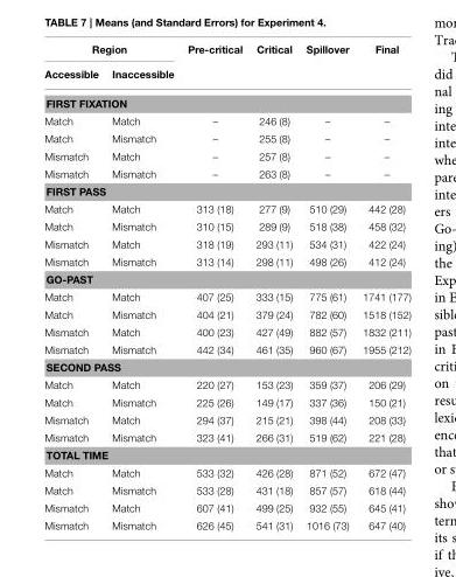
<table><thead><tr><td colspan="2">Region</td><td rowspan="2">Pre-critical</td><td rowspan="2">Critical</td><td rowspan="2">Spillover</td><td rowspan="2">Final</td></tr><tr><td>Accessible</td><td>Inaccessible</td></tr></thead><tbody><tr><td colspan="6">FIRST FIXATION</td></tr><tr><td>Match</td><td>Match</td><td>–</td><td>246 (8)</td><td>–</td><td>–</td></tr><tr><td>Match</td><td>Mismatch</td><td>–</td><td>255 (8)</td><td>–</td><td>–</td></tr><tr><td>Mismatch</td><td>Match</td><td>–</td><td>257 (8)</td><td>–</td><td>–</td></tr><tr><td>Mismatch</td><td>Mismatch</td><td>–</td><td>263 (8)</td><td>–</td><td>–</td></tr><tr><td colspan="6">FIRST PASS</td></tr><tr><td>Match</td><td>Match</td><td>313 (18)</td><td>277 (9)</td><td>510 (29)</td><td>442 (28)</td></tr><tr><td>Match</td><td>Mismatch</td><td>310 (15)</td><td>289 (9)</td><td>518 (38)</td><td>458 (32)</td></tr><tr><td>Mismatch</td><td>Match</td><td>318 (19)</td><td>293 (11)</td><td>534 (31)</td><td>422 (24)</td></tr><tr><td>Mismatch</td><td>Mismatch</td><td>313 (14)</td><td>298 (11)</td><td>498 (26)</td><td>412 (24)</td></tr><tr><td colspan="6">GO-PAST</td></tr><tr><td>Match</td><td>Match</td><td>407 (25)</td><td>333 (15)</td><td>775 (61)</td><td>1741 (177)</td></tr><tr><td>Match</td><td>Mismatch</td><td>404 (21)</td><td>379 (24)</td><td>782 (60)</td><td>1518 (152)</td></tr><tr><td>Mismatch</td><td>Match</td><td>400 (23)</td><td>427 (49)</td><td>882 (57)</td><td>1832 (211)</td></tr><tr><td>Mismatch</td><td>Mismatch</td><td>442 (34)</td><td>461 (35)</td><td>960 (67)</td><td>1955 (212)</td></tr><tr><td colspan="6">SECOND PASS</td></tr><tr><td>Match</td><td>Match</td><td>220 (27)</td><td>153 (23)</td><td>359 (37)</td><td>206 (29)</td></tr><tr><td>Match</td><td>Mismatch</td><td>225 (26)</td><td>149 (17)</td><td>337 (36)</td><td>150 (21)</td></tr><tr><td>Mismatch</td><td>Match</td><td>294 (37)</td><td>215 (21)</td><td>398 (44)</td><td>208 (33)</td></tr><tr><td>Mismatch</td><td>Mismatch</td><td>323 (41)</td><td>266 (31)</td><td>519 (62)</td><td>221 (28)</td></tr><tr><td colspan="6">TOTAL TIME</td></tr><tr><td>Match</td><td>Match</td><td>533 (32)</td><td>426 (28)</td><td>871 (52)</td><td>672 (47)</td></tr><tr><td>Match</td><td>Mismatch</td><td>533 (28)</td><td>431 (18)</td><td>857 (57)</td><td>618 (44)</td></tr><tr><td>Mismatch</td><td>Match</td><td>607 (41)</td><td>499 (25)</td><td>932 (55)</td><td>645 (41)</td></tr><tr><td>Mismatch</td><td>Mismatch</td><td>626 (45)</td><td>541 (31)</td><td>1016 (73)</td><td>647 (40)</td></tr></tbody></table>